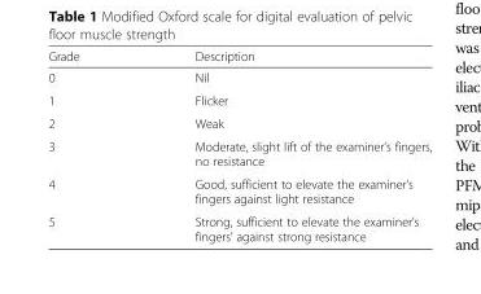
<table><thead><tr><td>Grade</td><td>Description</td></tr></thead><tbody><tr><td>0</td><td>Nil</td></tr><tr><td>1</td><td>Flicker</td></tr><tr><td>2</td><td>Weak</td></tr><tr><td>3</td><td>Moderate, slight lift of the examiner’s fingers, no resistance</td></tr><tr><td>4</td><td>Good, sufficient to elevate the examiner’s fingers against light resistance</td></tr><tr><td>5</td><td>Strong, sufficient to elevate the examiner’s fingers’ against strong resistance</td></tr></tbody></table>